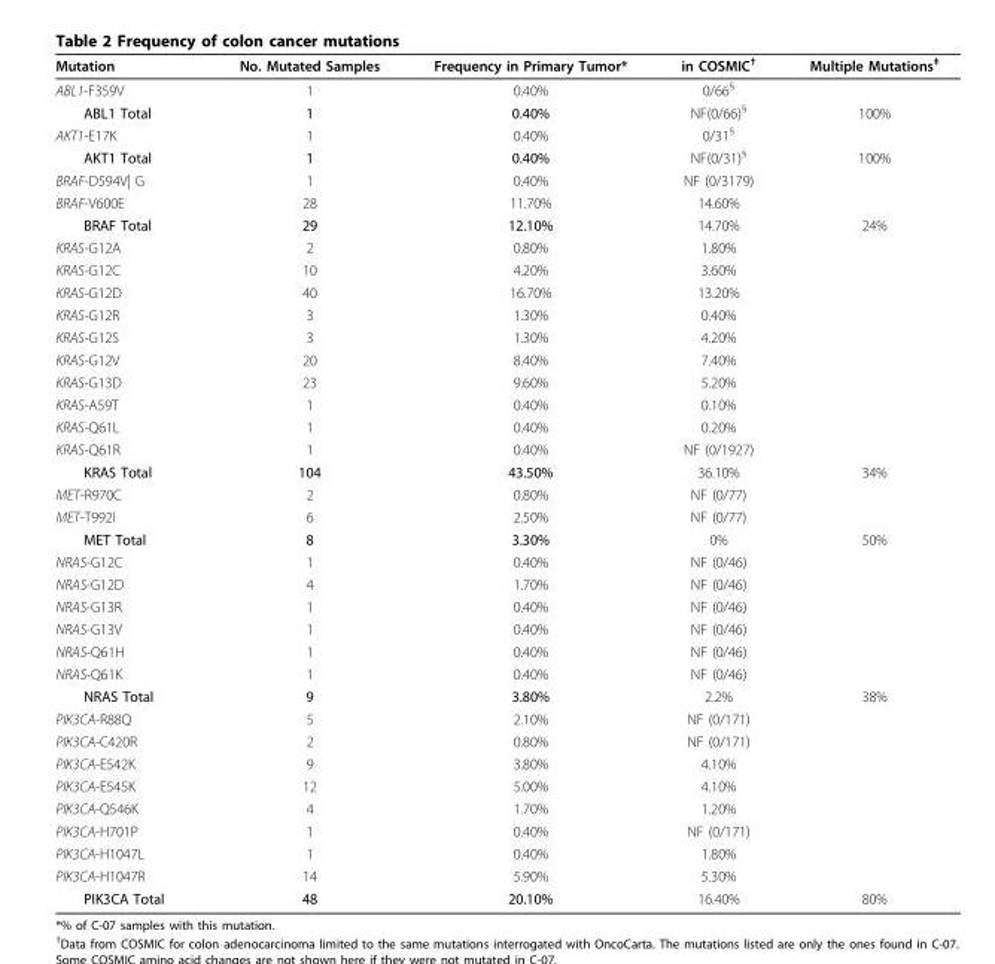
<table><thead><tr><td>Mutation</td><td>No. Mutated Samples</td><td>Frequency in Primary Tumor*</td><td>in COSMIC<sup>†</sup></td><td>Multiple Mutations<sup>‡</sup></td></tr></thead><tbody><tr><td>ABL1-F359V</td><td>1</td><td>0.40%</td><td>0/66<sup>§</sup></td><td></td></tr><tr><td>ABL1 Total</td><td>1</td><td>0.40%</td><td>NF(0/66)<sup>§</sup></td><td>100%</td></tr><tr><td>AKT1-E17K</td><td>1</td><td>0.40%</td><td>0/31<sup>§</sup></td><td></td></tr><tr><td>AKT1 Total</td><td>1</td><td>0.40%</td><td>NF(0/31)<sup>§</sup></td><td>100%</td></tr><tr><td>BRAF-D594V| G</td><td>1</td><td>0.40%</td><td>NF (0/3179)</td><td></td></tr><tr><td>BRAF-V600E</td><td>28</td><td>11.70%</td><td>14.60%</td><td></td></tr><tr><td>BRAF Total</td><td>29</td><td>12.10%</td><td>14.70%</td><td>24%</td></tr><tr><td>KRAS-G12A</td><td>2</td><td>0.80%</td><td>1.80%</td><td></td></tr><tr><td>KRAS-G12C</td><td>10</td><td>4.20%</td><td>3.60%</td><td></td></tr><tr><td>KRAS-G12D</td><td>40</td><td>16.70%</td><td>13.20%</td><td></td></tr><tr><td>KRAS-G12R</td><td>3</td><td>1.30%</td><td>0.40%</td><td></td></tr><tr><td>KRAS-G12S</td><td>3</td><td>1.30%</td><td>4.20%</td><td></td></tr><tr><td>KRAS-G12V</td><td>20</td><td>8.40%</td><td>7.40%</td><td></td></tr><tr><td>KRAS-G13D</td><td>23</td><td>9.60%</td><td>5.20%</td><td></td></tr><tr><td>KRAS-A59T</td><td>1</td><td>0.40%</td><td>0.10%</td><td></td></tr><tr><td>KRAS-Q61L</td><td>1</td><td>0.40%</td><td>0.20%</td><td></td></tr><tr><td>KRAS-Q61R</td><td>1</td><td>0.40%</td><td>NF (0/1927)</td><td></td></tr><tr><td>KRAS Total</td><td>104</td><td>43.50%</td><td>36.10%</td><td>34%</td></tr><tr><td>MET-R970C</td><td>2</td><td>0.80%</td><td>NF (0/77)</td><td></td></tr><tr><td>MET-T992I</td><td>6</td><td>2.50%</td><td>NF (0/77)</td><td></td></tr><tr><td>MET Total</td><td>8</td><td>3.30%</td><td>0%</td><td>50%</td></tr><tr><td>NRAS-G12C</td><td>1</td><td>0.40%</td><td>NF (0/46)</td><td></td></tr><tr><td>NRAS-G12D</td><td>4</td><td>1.70%</td><td>NF (0/46)</td><td></td></tr><tr><td>NRAS-G13R</td><td>1</td><td>0.40%</td><td>NF (0/46)</td><td></td></tr><tr><td>NRAS-G13V</td><td>1</td><td>0.40%</td><td>NF (0/46)</td><td></td></tr><tr><td>NRAS-Q61H</td><td>1</td><td>0.40%</td><td>NF (0/46)</td><td></td></tr><tr><td>NRAS-Q61K</td><td>1</td><td>0.40%</td><td>NF (0/46)</td><td></td></tr><tr><td>NRAS Total</td><td>9</td><td>3.80%</td><td>2.2%</td><td>38%</td></tr><tr><td>PIK3CA-R88Q</td><td>5</td><td>2.10%</td><td>NF (0/171)</td><td></td></tr><tr><td>PIK3CA-C420R</td><td>2</td><td>0.80%</td><td>NF (0/171)</td><td></td></tr><tr><td>PIK3CA-E542K</td><td>9</td><td>3.80%</td><td>4.10%</td><td></td></tr><tr><td>PIK3CA-E545K</td><td>12</td><td>5.00%</td><td>4.10%</td><td></td></tr><tr><td>PIK3CA-Q546K</td><td>4</td><td>1.70%</td><td>1.20%</td><td></td></tr><tr><td>PIK3CA-H701P</td><td>1</td><td>0.40%</td><td>NF (0/171)</td><td></td></tr><tr><td>PIK3CA-H1047L</td><td>1</td><td>0.40%</td><td>1.80%</td><td></td></tr><tr><td>PIK3CA-H1047R</td><td>14</td><td>5.90%</td><td>5.30%</td><td></td></tr><tr><td>PIK3CA Total</td><td>48</td><td>20.10%</td><td>16.40%</td><td>80%</td></tr></tbody></table>